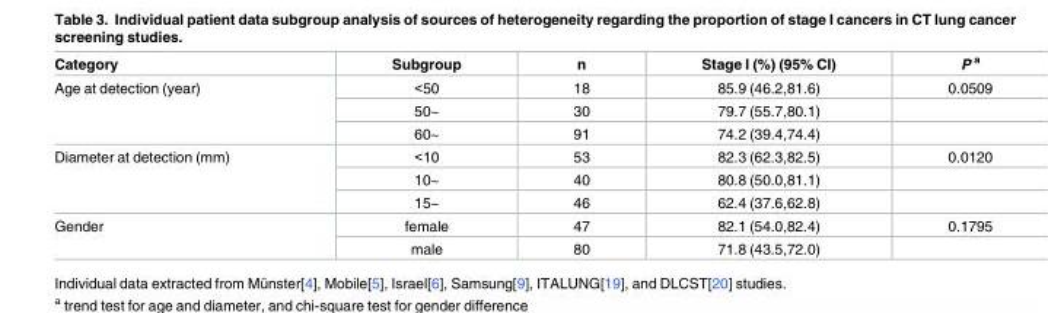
<table><thead><tr><td>Category</td><td>Subgroup</td><td>n</td><td>Stage I (%) (95% CI)</td><td>P <sup>a</sup></td></tr></thead><tbody><tr><td rowspan="3">Age at detection (year)</td><td>&lt;50</td><td>18</td><td>85.9 (46.2,81.6)</td><td>0.0509</td></tr><tr><td>50~</td><td>30</td><td>79.7 (55.7,80.1)</td><td></td></tr><tr><td>60~</td><td>91</td><td>74.2 (39.4,74.4)</td><td></td></tr><tr><td rowspan="3">Diameter at detection (mm)</td><td>&lt;10</td><td>53</td><td>82.3 (62.3,82.5)</td><td>0.0120</td></tr><tr><td>10~</td><td>40</td><td>80.8 (50.0,81.1)</td><td></td></tr><tr><td>15~</td><td>46</td><td>62.4 (37.6,62.8)</td><td></td></tr><tr><td rowspan="2">Gender</td><td>female</td><td>47</td><td>82.1 (54.0,82.4)</td><td>0.1795</td></tr><tr><td>male</td><td>80</td><td>71.8 (43.5,72.0)</td><td></td></tr></tbody></table>